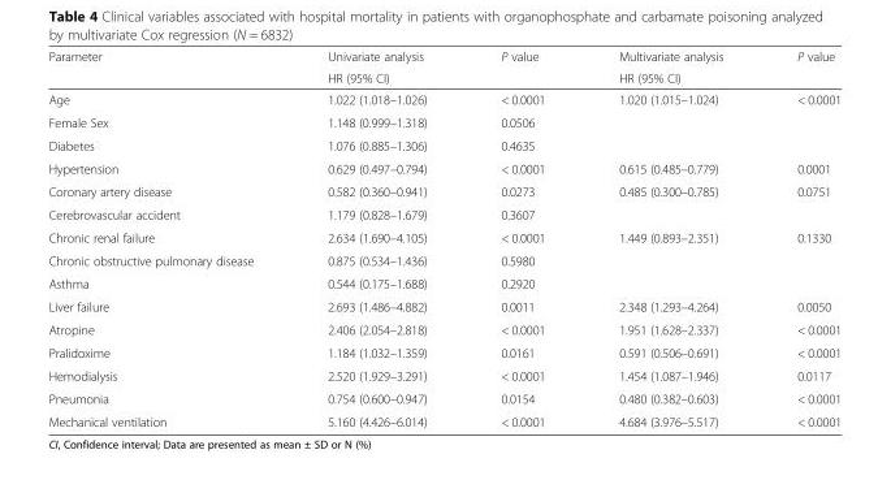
<table><thead><tr><td rowspan="2">Parameter</td><td rowspan="2">Univariate analysis HR (95% CI)</td><td rowspan="2">P value</td><td rowspan="2">Multivariate analysis HR (95% CI)</td><td rowspan="2">P value</td></tr><tr></tr></thead><tbody><tr><td>Age</td><td>1.022 (1.018–1.026)</td><td>&lt; 0.0001</td><td>1.020 (1.015–1.024)</td><td>&lt; 0.0001</td></tr><tr><td>Female Sex</td><td>1.148 (0.999–1.318)</td><td>0.0506</td><td></td><td></td></tr><tr><td>Diabetes</td><td>1.076 (0.885–1.306)</td><td>0.4635</td><td></td><td></td></tr><tr><td>Hypertension</td><td>0.629 (0.497–0.794)</td><td>&lt; 0.0001</td><td>0.615 (0.485–0.779)</td><td>0.0001</td></tr><tr><td>Coronary artery disease</td><td>0.582 (0.360–0.941)</td><td>0.0273</td><td>0.485 (0.300–0.785)</td><td>0.0751</td></tr><tr><td>Cerebrovascular accident</td><td>1.179 (0.828–1.679)</td><td>0.3607</td><td></td><td></td></tr><tr><td>Chronic renal failure</td><td>2.634 (1.690–4.105)</td><td>&lt; 0.0001</td><td>1.449 (0.893–2.351)</td><td>0.1330</td></tr><tr><td>Chronic obstructive pulmonary disease</td><td>0.875 (0.534–1.436)</td><td>0.5980</td><td></td><td></td></tr><tr><td>Asthma</td><td>0.544 (0.175–1.688)</td><td>0.2920</td><td></td><td></td></tr><tr><td>Liver failure</td><td>2.693 (1.486–4.882)</td><td>0.0011</td><td>2.348 (1.293–4.264)</td><td>0.0050</td></tr><tr><td>Atropine</td><td>2.406 (2.054–2.818)</td><td>&lt; 0.0001</td><td>1.951 (1.628–2.337)</td><td>&lt; 0.0001</td></tr><tr><td>Pralidoxime</td><td>1.184 (1.032–1.359)</td><td>0.0161</td><td>0.591 (0.506–0.691)</td><td>&lt; 0.0001</td></tr><tr><td>Hemodialysis</td><td>2.520 (1.929–3.291)</td><td>&lt; 0.0001</td><td>1.454 (1.087–1.946)</td><td>0.0117</td></tr><tr><td>Pneumonia</td><td>0.754 (0.600–0.947)</td><td>0.0154</td><td>0.480 (0.382–0.603)</td><td>&lt; 0.0001</td></tr><tr><td>Mechanical ventilation</td><td>5.160 (4.426–6.014)</td><td>&lt; 0.0001</td><td>4.684 (3.976–5.517)</td><td>&lt; 0.0001</td></tr></tbody></table>